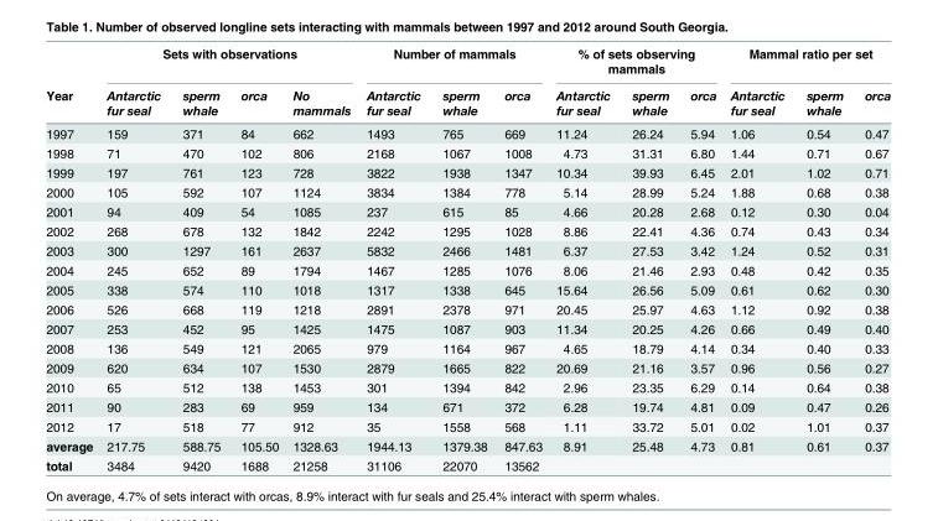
<table><thead><tr><td rowspan="2">Year</td><td colspan="4">Sets with observations</td><td colspan="3">Number of mammals</td><td colspan="3">% of sets observing mammals</td><td colspan="3">Mammal ratio per set</td></tr><tr><td>Antarctic fur seal</td><td>sperm whale</td><td>orca</td><td>No mammals</td><td>Antarctic fur seal</td><td>sperm whale</td><td>orca</td><td>Antarctic fur seal</td><td>sperm whale</td><td>orca</td><td>Antarctic fur seal</td><td>sperm whale</td><td>orca</td></tr></thead><tbody><tr><td>1997</td><td>159</td><td>371</td><td>84</td><td>662</td><td>1493</td><td>765</td><td>669</td><td>11.24</td><td>26.24</td><td>5.94</td><td>1.06</td><td>0.54</td><td>0.47</td></tr><tr><td>1998</td><td>71</td><td>470</td><td>102</td><td>806</td><td>2168</td><td>1067</td><td>1008</td><td>4.73</td><td>31.31</td><td>6.80</td><td>1.44</td><td>0.71</td><td>0.67</td></tr><tr><td>1999</td><td>197</td><td>761</td><td>123</td><td>728</td><td>3822</td><td>1938</td><td>1347</td><td>10.34</td><td>39.93</td><td>6.45</td><td>2.01</td><td>1.02</td><td>0.71</td></tr><tr><td>2000</td><td>105</td><td>592</td><td>107</td><td>1124</td><td>3834</td><td>1384</td><td>778</td><td>5.14</td><td>28.99</td><td>5.24</td><td>1.88</td><td>0.68</td><td>0.38</td></tr><tr><td>2001</td><td>94</td><td>409</td><td>54</td><td>1085</td><td>237</td><td>615</td><td>85</td><td>4.66</td><td>20.28</td><td>2.68</td><td>0.12</td><td>0.30</td><td>0.04</td></tr><tr><td>2002</td><td>268</td><td>678</td><td>132</td><td>1842</td><td>2242</td><td>1295</td><td>1028</td><td>8.86</td><td>22.41</td><td>4.36</td><td>0.74</td><td>0.43</td><td>0.34</td></tr><tr><td>2003</td><td>300</td><td>1297</td><td>161</td><td>2637</td><td>5832</td><td>2466</td><td>1481</td><td>6.37</td><td>27.53</td><td>3.42</td><td>1.24</td><td>0.52</td><td>0.31</td></tr><tr><td>2004</td><td>245</td><td>652</td><td>89</td><td>1794</td><td>1467</td><td>1285</td><td>1076</td><td>8.06</td><td>21.46</td><td>2.93</td><td>0.48</td><td>0.42</td><td>0.35</td></tr><tr><td>2005</td><td>338</td><td>574</td><td>110</td><td>1018</td><td>1317</td><td>1338</td><td>645</td><td>15.64</td><td>26.56</td><td>5.09</td><td>0.61</td><td>0.62</td><td>0.30</td></tr><tr><td>2006</td><td>526</td><td>668</td><td>119</td><td>1218</td><td>2891</td><td>2378</td><td>971</td><td>20.45</td><td>25.97</td><td>4.63</td><td>1.12</td><td>0.92</td><td>0.38</td></tr><tr><td>2007</td><td>253</td><td>452</td><td>95</td><td>1425</td><td>1475</td><td>1087</td><td>903</td><td>11.34</td><td>20.25</td><td>4.26</td><td>0.66</td><td>0.49</td><td>0.40</td></tr><tr><td>2008</td><td>136</td><td>549</td><td>121</td><td>2065</td><td>979</td><td>1164</td><td>967</td><td>4.65</td><td>18.79</td><td>4.14</td><td>0.34</td><td>0.40</td><td>0.33</td></tr><tr><td>2009</td><td>620</td><td>634</td><td>107</td><td>1530</td><td>2879</td><td>1665</td><td>822</td><td>20.69</td><td>21.16</td><td>3.57</td><td>0.96</td><td>0.56</td><td>0.27</td></tr><tr><td>2010</td><td>65</td><td>512</td><td>138</td><td>1453</td><td>301</td><td>1394</td><td>842</td><td>2.96</td><td>23.35</td><td>6.29</td><td>0.14</td><td>0.64</td><td>0.38</td></tr><tr><td>2011</td><td>90</td><td>283</td><td>69</td><td>959</td><td>134</td><td>671</td><td>372</td><td>6.28</td><td>19.74</td><td>4.81</td><td>0.09</td><td>0.47</td><td>0.26</td></tr><tr><td>2012</td><td>17</td><td>518</td><td>77</td><td>912</td><td>35</td><td>1558</td><td>568</td><td>1.11</td><td>33.72</td><td>5.01</td><td>0.02</td><td>1.01</td><td>0.37</td></tr><tr><td>average</td><td>217.75</td><td>588.75</td><td>105.50</td><td>1328.63</td><td>1944.13</td><td>1379.38</td><td>847.63</td><td>8.91</td><td>25.48</td><td>4.73</td><td>0.81</td><td>0.61</td><td>0.37</td></tr><tr><td>total</td><td>3484</td><td>9420</td><td>1688</td><td>21258</td><td>31106</td><td>22070</td><td>13562</td><td colspan="3"></td><td colspan="3"></td></tr></tbody></table>